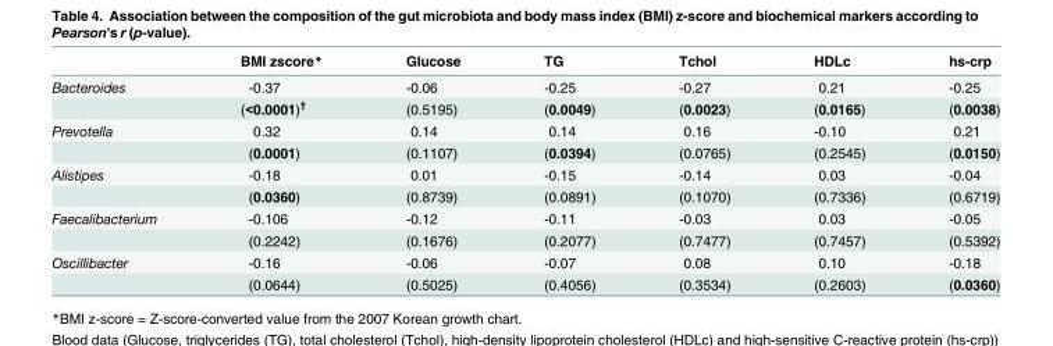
<table><thead><tr><td></td><td>BMI zscore*</td><td>Glucose</td><td>TG</td><td>Tchol</td><td>HDLc</td><td>hs-crp</td></tr></thead><tbody><tr><td rowspan="2">Bacteroides</td><td>-0.37</td><td>-0.06</td><td>-0.25</td><td>-0.27</td><td>0.21</td><td>-0.25</td></tr><tr><td>(&lt;0.0001)<sup>†</sup></td><td>(0.5195)</td><td>(0.0049)</td><td>(0.0023)</td><td>(0.0165)</td><td>(0.0038)</td></tr><tr><td rowspan="2">Prevotella</td><td>0.32</td><td>0.14</td><td>0.14</td><td>0.16</td><td>-0.10</td><td>0.21</td></tr><tr><td>(0.0001)</td><td>(0.1107)</td><td>(0.0394)</td><td>(0.0765)</td><td>(0.2545)</td><td>(0.0150)</td></tr><tr><td rowspan="2">Alistipes</td><td>-0.18</td><td>0.01</td><td>-0.15</td><td>-0.14</td><td>0.03</td><td>-0.04</td></tr><tr><td>(0.0360)</td><td>(0.8739)</td><td>(0.0891)</td><td>(0.1070)</td><td>(0.7336)</td><td>(0.6719)</td></tr><tr><td rowspan="2">Faecalibacterium</td><td>-0.106</td><td>-0.12</td><td>-0.11</td><td>-0.03</td><td>0.03</td><td>-0.05</td></tr><tr><td>(0.2242)</td><td>(0.1676)</td><td>(0.2077)</td><td>(0.7477)</td><td>(0.7457)</td><td>(0.5392)</td></tr><tr><td rowspan="2">Oscillibacter</td><td>-0.16</td><td>-0.06</td><td>-0.07</td><td>0.08</td><td>0.10</td><td>-0.18</td></tr><tr><td>(0.0644)</td><td>(0.5025)</td><td>(0.4056)</td><td>(0.3534)</td><td>(0.2603)</td><td>(0.0360)</td></tr></tbody></table>